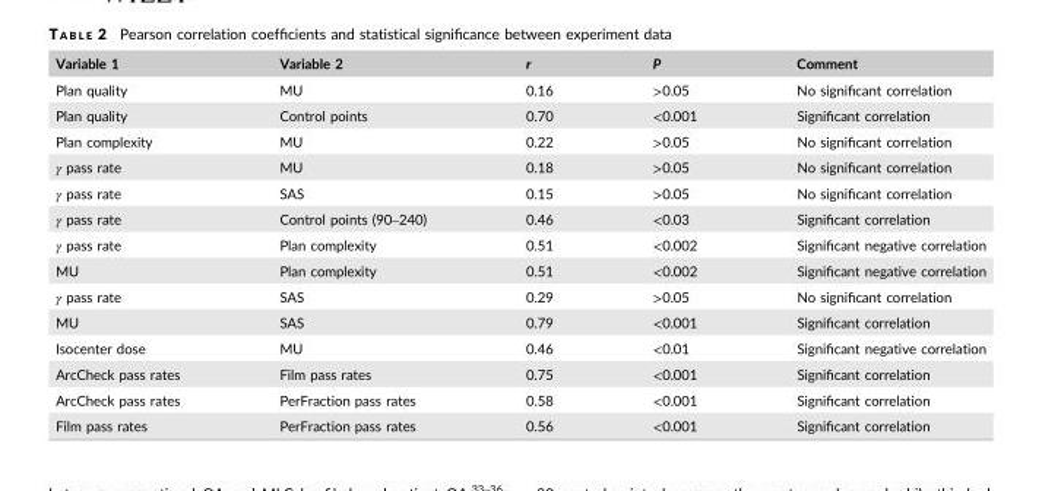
<table><thead><tr><td>Variable 1</td><td>Variable 2</td><td>r</td><td>P</td><td>Comment</td></tr></thead><tbody><tr><td>Plan quality</td><td>MU</td><td>0.16</td><td>&gt;0.05</td><td>No significant correlation</td></tr><tr><td>Plan quality</td><td>Control points</td><td>0.70</td><td>&lt;0.001</td><td>Significant correlation</td></tr><tr><td>Plan complexity</td><td>MU</td><td>0.22</td><td>&gt;0.05</td><td>No significant correlation</td></tr><tr><td>γ pass rate</td><td>MU</td><td>0.18</td><td>&gt;0.05</td><td>No significant correlation</td></tr><tr><td>γ pass rate</td><td>SAS</td><td>0.15</td><td>&gt;0.05</td><td>No significant correlation</td></tr><tr><td>γ pass rate</td><td>Control points (90–240)</td><td>0.46</td><td>&lt;0.03</td><td>Significant correlation</td></tr><tr><td>γ pass rate</td><td>Plan complexity</td><td>0.51</td><td>&lt;0.002</td><td>Significant negative correlation</td></tr><tr><td>MU</td><td>Plan complexity</td><td>0.51</td><td>&lt;0.002</td><td>Significant negative correlation</td></tr><tr><td>γ pass rate</td><td>SAS</td><td>0.29</td><td>&gt;0.05</td><td>No significant correlation</td></tr><tr><td>MU</td><td>SAS</td><td>0.79</td><td>&lt;0.001</td><td>Significant correlation</td></tr><tr><td>Isocenter dose</td><td>MU</td><td>0.46</td><td>&lt;0.01</td><td>Significant negative correlation</td></tr><tr><td>ArcCheck pass rates</td><td>Film pass rates</td><td>0.75</td><td>&lt;0.001</td><td>Significant correlation</td></tr><tr><td>ArcCheck pass rates</td><td>PerFraction pass rates</td><td>0.58</td><td>&lt;0.001</td><td>Significant correlation</td></tr><tr><td>Film pass rates</td><td>PerFraction pass rates</td><td>0.56</td><td>&lt;0.001</td><td>Significant correlation</td></tr></tbody></table>